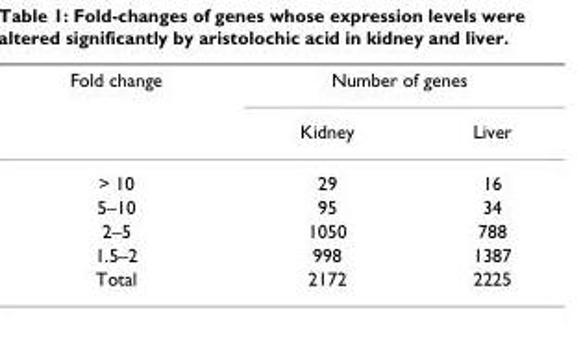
<table><thead><tr><td rowspan="2">Fold change</td><td colspan="2">Number of genes</td></tr><tr><td>Kidney</td><td>Liver</td></tr></thead><tbody><tr><td>&gt; 10</td><td>29</td><td>16</td></tr><tr><td>5–10</td><td>95</td><td>34</td></tr><tr><td>2–5</td><td>1050</td><td>788</td></tr><tr><td>1.5–2</td><td>998</td><td>1387</td></tr><tr><td>Total</td><td>2172</td><td>2225</td></tr></tbody></table>